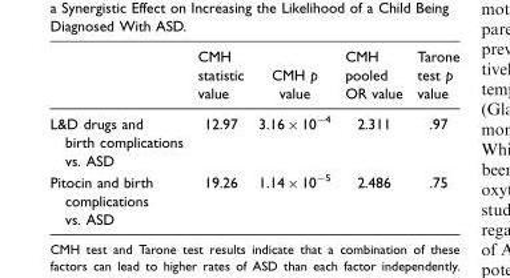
<table><thead><tr><td></td><td>CMH statistic value</td><td>CMH p value</td><td>CMH pooled OR value</td><td>Tarone test p value</td></tr></thead><tbody><tr><td>L&amp;D drugs and birth complications vs. ASD</td><td>12.97</td><td>3.16 × 10<sup>−4</sup></td><td>2.311</td><td>.97</td></tr><tr><td>Pitocin and birth complications vs. ASD</td><td>19.26</td><td>1.14 × 10<sup>−5</sup></td><td>2.486</td><td>.75</td></tr></tbody></table>